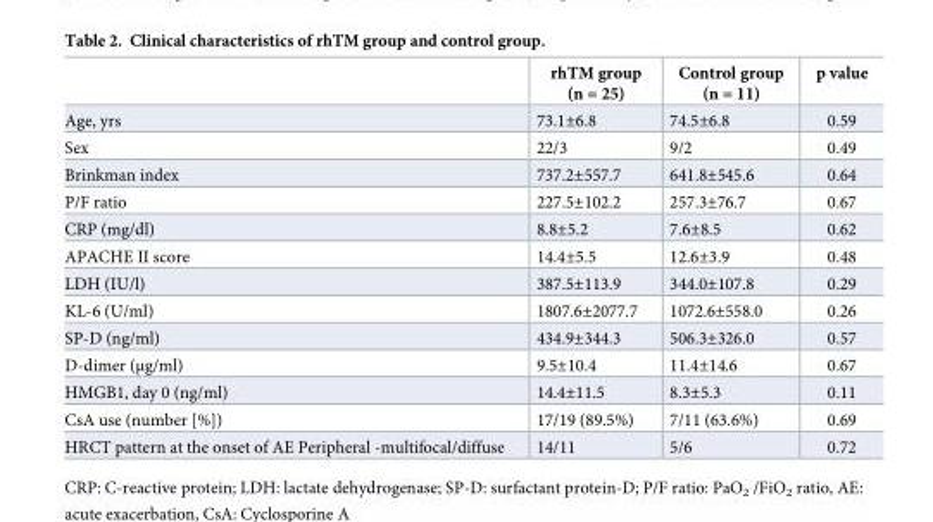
<table><thead><tr><td></td><td>rhTM group (n = 25)</td><td>Control group (n = 11)</td><td>p value</td></tr></thead><tbody><tr><td>Age, yrs</td><td>73.1±6.8</td><td>74.5±6.8</td><td>0.59</td></tr><tr><td>Sex</td><td>22/3</td><td>9/2</td><td>0.49</td></tr><tr><td>Brinkman index</td><td>737.2±557.7</td><td>641.8±545.6</td><td>0.64</td></tr><tr><td>P/F ratio</td><td>227.5±102.2</td><td>257.3±76.7</td><td>0.67</td></tr><tr><td>CRP (mg/dl)</td><td>8.8±5.2</td><td>7.6±8.5</td><td>0.62</td></tr><tr><td>APACHE II score</td><td>14.4±5.5</td><td>12.6±3.9</td><td>0.48</td></tr><tr><td>LDH (IU/l)</td><td>387.5±113.9</td><td>344.0±107.8</td><td>0.29</td></tr><tr><td>KL-6 (U/ml)</td><td>1807.6±2077.7</td><td>1072.6±558.0</td><td>0.26</td></tr><tr><td>SP-D (ng/ml)</td><td>434.9±344.3</td><td>506.3±326.0</td><td>0.57</td></tr><tr><td>D-dimer (μg/ml)</td><td>9.5±10.4</td><td>11.4±14.6</td><td>0.67</td></tr><tr><td>HMGB1, day 0 (ng/ml)</td><td>14.4±11.5</td><td>8.3±5.3</td><td>0.11</td></tr><tr><td>CsA use (number [%])</td><td>17/19 (89.5%)</td><td>7/11 (63.6%)</td><td>0.69</td></tr><tr><td>HRCT pattern at the onset of AE Peripheral -multifocal/diffuse</td><td>14/11</td><td>5/6</td><td>0.72</td></tr></tbody></table>